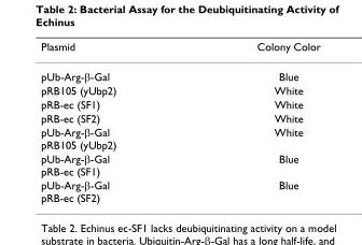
<table><thead><tr><td>Plasmid</td><td>Colony Color</td></tr></thead><tbody><tr><td>pUb-Arg-β-Gal</td><td>Blue</td></tr><tr><td>pRB105 (yUbp2)</td><td>White</td></tr><tr><td>pRB-ec (SF1)</td><td>White</td></tr><tr><td>pRB-ec (SF2)</td><td>White</td></tr><tr><td>pUb-Arg-β-Gal pRB105 (yUbp2)</td><td>White</td></tr><tr><td>pUb-Arg-β-Gal pRB-ec (SF1)</td><td>Blue</td></tr><tr><td>pUb-Arg-β-Gal pRB-ec (SF2)</td><td>Blue</td></tr></tbody></table>